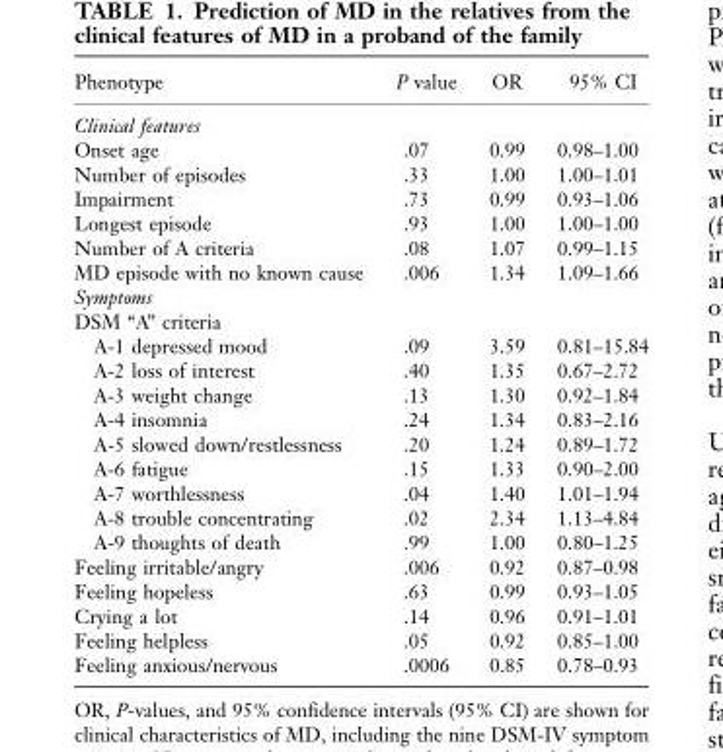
<table><thead><tr><td>Phenotype</td><td>P value</td><td>OR</td><td>95% CI</td></tr></thead><tbody><tr><td colspan="4">Clinical features</td></tr><tr><td>Onset age</td><td>.07</td><td>0.99</td><td>0.98–1.00</td></tr><tr><td>Number of episodes</td><td>.33</td><td>1.00</td><td>1.00–1.01</td></tr><tr><td>Impairment</td><td>.73</td><td>0.99</td><td>0.93–1.06</td></tr><tr><td>Longest episode</td><td>.93</td><td>1.00</td><td>1.00–1.00</td></tr><tr><td>Number of A criteria</td><td>.08</td><td>1.07</td><td>0.99–1.15</td></tr><tr><td>MD episode with no known cause</td><td>.006</td><td>1.34</td><td>1.09–1.66</td></tr><tr><td colspan="4">Symptoms</td></tr><tr><td colspan="4">DSM ‘‘A’’ criteria</td></tr><tr><td>A-1 depressed mood</td><td>.09</td><td>3.59</td><td>0.81–15.84</td></tr><tr><td>A-2 loss of interest</td><td>.40</td><td>1.35</td><td>0.67–2.72</td></tr><tr><td>A-3 weight change</td><td>.13</td><td>1.30</td><td>0.92–1.84</td></tr><tr><td>A-4 insomnia</td><td>.24</td><td>1.34</td><td>0.83–2.16</td></tr><tr><td>A-5 slowed down/restlessness</td><td>.20</td><td>1.24</td><td>0.89–1.72</td></tr><tr><td>A-6 fatigue</td><td>.15</td><td>1.33</td><td>0.90–2.00</td></tr><tr><td>A-7 worthlessness</td><td>.04</td><td>1.40</td><td>1.01–1.94</td></tr><tr><td>A-8 trouble concentrating</td><td>.02</td><td>2.34</td><td>1.13–4.84</td></tr><tr><td>A-9 thoughts of death</td><td>.99</td><td>1.00</td><td>0.80–1.25</td></tr><tr><td>Feeling irritable/angry</td><td>.006</td><td>0.92</td><td>0.87–0.98</td></tr><tr><td>Feeling hopeless</td><td>.63</td><td>0.99</td><td>0.93–1.05</td></tr><tr><td>Crying a lot</td><td>.14</td><td>0.96</td><td>0.91–1.01</td></tr><tr><td>Feeling helpless</td><td>.05</td><td>0.92</td><td>0.85–1.00</td></tr><tr><td>Feeling anxious/nervous</td><td>.0006</td><td>0.85</td><td>0.78–0.93</td></tr></tbody></table>